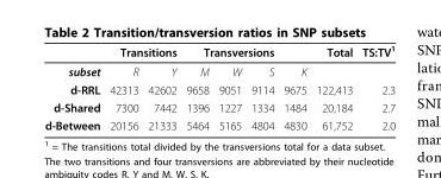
<table><thead><tr><td rowspan="2">subset</td><td colspan="2">Transitions</td><td colspan="3">Transversions</td><td rowspan="2">K</td><td rowspan="2">Total</td><td rowspan="2">TS:TV<sup>1</sup></td></tr><tr><td>R</td><td>Y</td><td>M</td><td>W</td><td>S</td></tr></thead><tbody><tr><td>d-RRL</td><td>42313</td><td>42602</td><td>9658</td><td>9051</td><td>9114</td><td>9675</td><td>122,413</td><td>2.3</td></tr><tr><td>d-Shared</td><td>7300</td><td>7442</td><td>1396</td><td>1227</td><td>1334</td><td>1484</td><td>20,184</td><td>2.7</td></tr><tr><td>d-Between</td><td>20156</td><td>21333</td><td>5464</td><td>5165</td><td>4804</td><td>4830</td><td>61,752</td><td>2.0</td></tr></tbody></table>